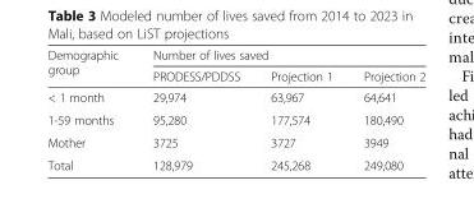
<table><thead><tr><td rowspan="2">Demographic group</td><td colspan="3">Number of lives saved</td></tr><tr><td>PRODESS/PDDSS</td><td>Projection 1</td><td>Projection 2</td></tr></thead><tbody><tr><td>&lt; 1 month</td><td>29,974</td><td>63,967</td><td>64,641</td></tr><tr><td>1-59 months</td><td>95,280</td><td>177,574</td><td>180,490</td></tr><tr><td>Mother</td><td>3725</td><td>3727</td><td>3949</td></tr><tr><td>Total</td><td>128,979</td><td>245,268</td><td>249,080</td></tr></tbody></table>